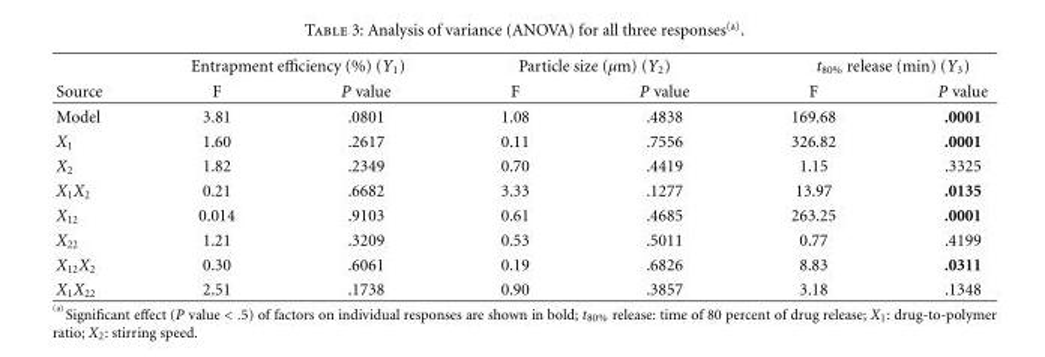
<table><thead><tr><td rowspan="2">Source</td><td colspan="2">Entrapment efficiency (%) (Y<sub>1</sub>)</td><td colspan="2">Particle size (µm) (Y<sub>2</sub>)</td><td colspan="2">t<sub>80%</sub> release (min) (Y<sub>3</sub>)</td></tr><tr><td>F</td><td>P value</td><td>F</td><td>P value</td><td>F</td><td>P value</td></tr></thead><tbody><tr><td>Model</td><td>3.81</td><td>.0801</td><td>1.08</td><td>.4838</td><td>169.68</td><td>.0001</td></tr><tr><td>X<sub>1</sub></td><td>1.60</td><td>.2617</td><td>0.11</td><td>.7556</td><td>326.82</td><td>.0001</td></tr><tr><td>X<sub>2</sub></td><td>1.82</td><td>.2349</td><td>0.70</td><td>.4419</td><td>1.15</td><td>.3325</td></tr><tr><td>X<sub>1</sub>X<sub>2</sub></td><td>0.21</td><td>.6682</td><td>3.33</td><td>.1277</td><td>13.97</td><td>.0135</td></tr><tr><td>X<sub>12</sub></td><td>0.014</td><td>.9103</td><td>0.61</td><td>.4685</td><td>263.25</td><td>.0001</td></tr><tr><td>X<sub>22</sub></td><td>1.21</td><td>.3209</td><td>0.53</td><td>.5011</td><td>0.77</td><td>.4199</td></tr><tr><td>X<sub>12</sub>X<sub>2</sub></td><td>0.30</td><td>.6061</td><td>0.19</td><td>.6826</td><td>8.83</td><td>.0311</td></tr><tr><td>X<sub>1</sub>X<sub>22</sub></td><td>2.51</td><td>.1738</td><td>0.90</td><td>.3857</td><td>3.18</td><td>.1348</td></tr></tbody></table>